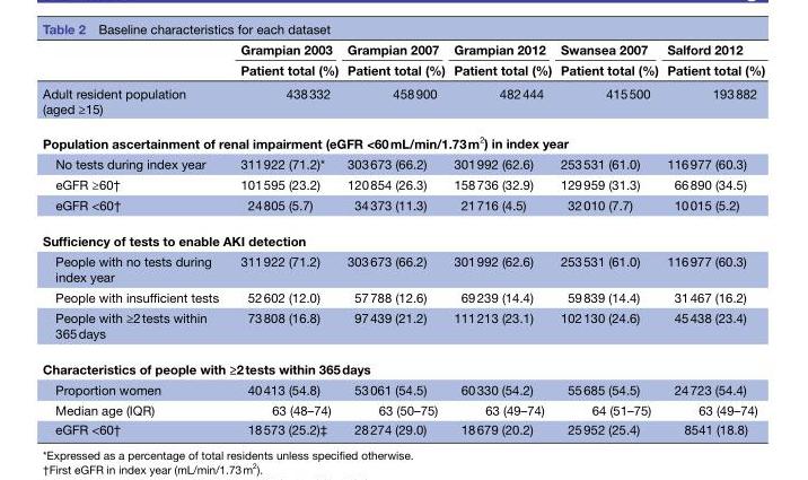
<table><thead><tr><td rowspan="2"></td><td rowspan="2">Grampian 2003 Patient total (%)</td><td rowspan="2">Grampian 2007 Patient total (%)</td><td rowspan="2">Grampian 2012 Patient total (%)</td><td rowspan="2">Swansea 2007 Patient total (%)</td><td rowspan="2">Salford 2012 Patient total (%)</td></tr><tr></tr></thead><tbody><tr><td>Adult resident population (aged ≥15)</td><td>438 332</td><td>458 900</td><td>482 444</td><td>415 500</td><td>193 882</td></tr><tr><td colspan="6">Population ascertainment of renal impairment (eGFR &lt;60 mL/min/1.73 m<sup>2</sup>) in index year</td></tr><tr><td>No tests during index year</td><td>311 922 (71.2)*</td><td>303 673 (66.2)</td><td>301 992 (62.6)</td><td>253 531 (61.0)</td><td>116 977 (60.3)</td></tr><tr><td>eGFR ≥60†</td><td>101 595 (23.2)</td><td>120 854 (26.3)</td><td>158 736 (32.9)</td><td>129 959 (31.3)</td><td>66 890 (34.5)</td></tr><tr><td>eGFR &lt;60†</td><td>24 805 (5.7)</td><td>34 373 (11.3)</td><td>21 716 (4.5)</td><td>32 010 (7.7)</td><td>10 015 (5.2)</td></tr><tr><td colspan="6">Sufficiency of tests to enable AKI detection</td></tr><tr><td>People with no tests during index year</td><td>311 922 (71.2)</td><td>303 673 (66.2)</td><td>301 992 (62.6)</td><td>253 531 (61.0)</td><td>116 977 (60.3)</td></tr><tr><td>People with insufficient tests</td><td>52 602 (12.0)</td><td>57 788 (12.6)</td><td>69 239 (14.4)</td><td>59 839 (14.4)</td><td>31 467 (16.2)</td></tr><tr><td>People with ≥2 tests within 365 days</td><td>73 808 (16.8)</td><td>97 439 (21.2)</td><td>111 213 (23.1)</td><td>102 130 (24.6)</td><td>45 438 (23.4)</td></tr><tr><td colspan="6">Characteristics of people with ≥2 tests within 365 days</td></tr><tr><td>Proportion women</td><td>40 413 (54.8)</td><td>53 061 (54.5)</td><td>60 330 (54.2)</td><td>55 685 (54.5)</td><td>24 723 (54.4)</td></tr><tr><td>Median age (IQR)</td><td>63 (48–74)</td><td>63 (50–75)</td><td>63 (49–74)</td><td>64 (51–75)</td><td>63 (49–74)</td></tr><tr><td>eGFR &lt;60†</td><td>18 573 (25.2)‡</td><td>28 274 (29.0)</td><td>18 679 (20.2)</td><td>25 952 (25.4)</td><td>8541 (18.8)</td></tr></tbody></table>